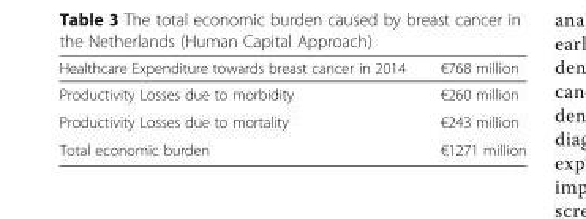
<table><thead><tr><td>Healthcare Expenditure towards breast cancer in 2014</td><td>€768 million</td></tr></thead><tbody><tr><td>Productivity Losses due to morbidity</td><td>€260 million</td></tr><tr><td>Productivity Losses due to mortality</td><td>€243 million</td></tr><tr><td>Total economic burden</td><td>€1271 million</td></tr></tbody></table>